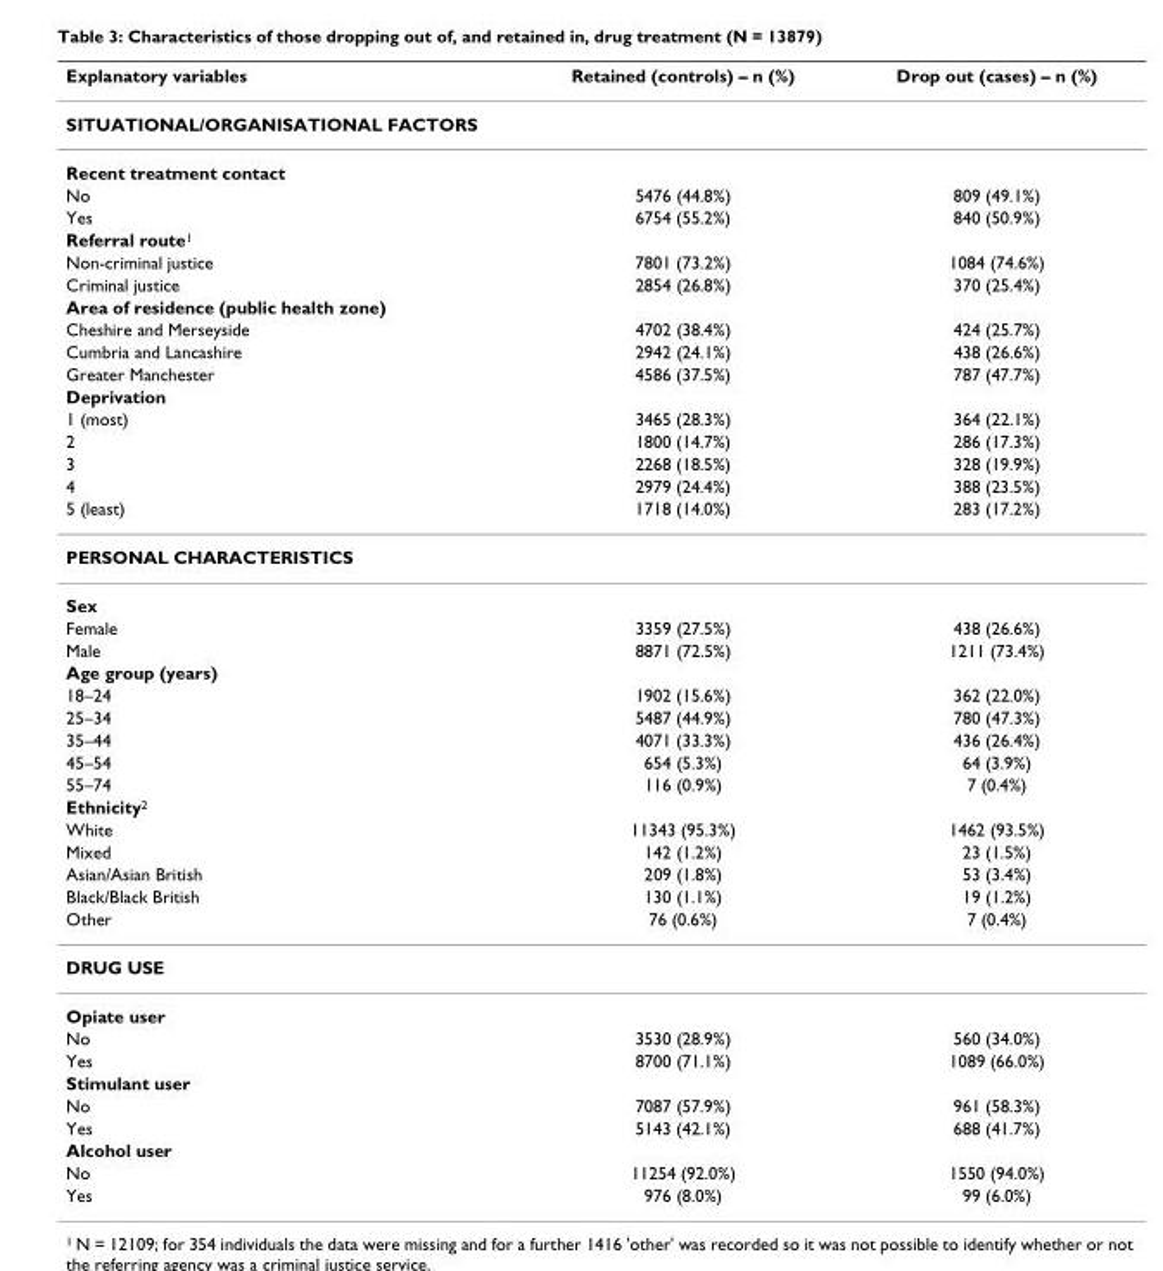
<table><thead><tr><td>Explanatory variables</td><td>Retained (controls) – n (%)</td><td>Drop out (cases) – n (%)</td></tr></thead><tbody><tr><td colspan="3">SITUATIONAL/ORGANISATIONAL FACTORS</td></tr><tr><td colspan="3">Recent treatment contact</td></tr><tr><td>No</td><td>5476 (44.8%)</td><td>809 (49.1%)</td></tr><tr><td>Yes</td><td>6754 (55.2%)</td><td>840 (50.9%)</td></tr><tr><td colspan="3">Referral route1</td></tr><tr><td>Non-criminal justice</td><td>7801 (73.2%)</td><td>1084 (74.6%)</td></tr><tr><td>Criminal justice</td><td>2854 (26.8%)</td><td>370 (25.4%)</td></tr><tr><td colspan="3">Area of residence (public health zone)</td></tr><tr><td>Cheshire and Merseyside</td><td>4702 (38.4%)</td><td>424 (25.7%)</td></tr><tr><td>Cumbria and Lancashire</td><td>2942 (24.1%)</td><td>438 (26.6%)</td></tr><tr><td>Greater Manchester</td><td>4586 (37.5%)</td><td>787 (47.7%)</td></tr><tr><td colspan="3">Deprivation</td></tr><tr><td>1 (most)</td><td>3465 (28.3%)</td><td>364 (22.1%)</td></tr><tr><td>2</td><td>1800 (14.7%)</td><td>286 (17.3%)</td></tr><tr><td>3</td><td>2268 (18.5%)</td><td>328 (19.9%)</td></tr><tr><td>4</td><td>2979 (24.4%)</td><td>388 (23.5%)</td></tr><tr><td>5 (least)</td><td>1718 (14.0%)</td><td>283 (17.2%)</td></tr><tr><td colspan="3">PERSONAL CHARACTERISTICS</td></tr><tr><td colspan="3">Sex</td></tr><tr><td>Female</td><td>3359 (27.5%)</td><td>438 (26.6%)</td></tr><tr><td>Male</td><td>8871 (72.5%)</td><td>1211 (73.4%)</td></tr><tr><td colspan="3">Age group (years)</td></tr><tr><td>18–24</td><td>1902 (15.6%)</td><td>362 (22.0%)</td></tr><tr><td>25–34</td><td>5487 (44.9%)</td><td>780 (47.3%)</td></tr><tr><td>35–44</td><td>4071 (33.3%)</td><td>436 (26.4%)</td></tr><tr><td>45–54</td><td>654 (5.3%)</td><td>64 (3.9%)</td></tr><tr><td>55–74</td><td>116 (0.9%)</td><td>7 (0.4%)</td></tr><tr><td colspan="3">Ethnicity2</td></tr><tr><td>White</td><td>11343 (95.3%)</td><td>1462 (93.5%)</td></tr><tr><td>Mixed</td><td>142 (1.2%)</td><td>23 (1.5%)</td></tr><tr><td>Asian/Asian British</td><td>209 (1.8%)</td><td>53 (3.4%)</td></tr><tr><td>Black/Black British</td><td>130 (1.1%)</td><td>19 (1.2%)</td></tr><tr><td>Other</td><td>76 (0.6%)</td><td>7 (0.4%)</td></tr><tr><td colspan="3">DRUG USE</td></tr><tr><td colspan="3">Opiate user</td></tr><tr><td>No</td><td>3530 (28.9%)</td><td>560 (34.0%)</td></tr><tr><td>Yes</td><td>8700 (71.1%)</td><td>1089 (66.0%)</td></tr><tr><td colspan="3">Stimulant user</td></tr><tr><td>No</td><td>7087 (57.9%)</td><td>961 (58.3%)</td></tr><tr><td>Yes</td><td>5143 (42.1%)</td><td>688 (41.7%)</td></tr><tr><td colspan="3">Alcohol user</td></tr><tr><td>No</td><td>11254 (92.0%)</td><td>1550 (94.0%)</td></tr><tr><td>Yes</td><td>976 (8.0%)</td><td>99 (6.0%)</td></tr></tbody></table>